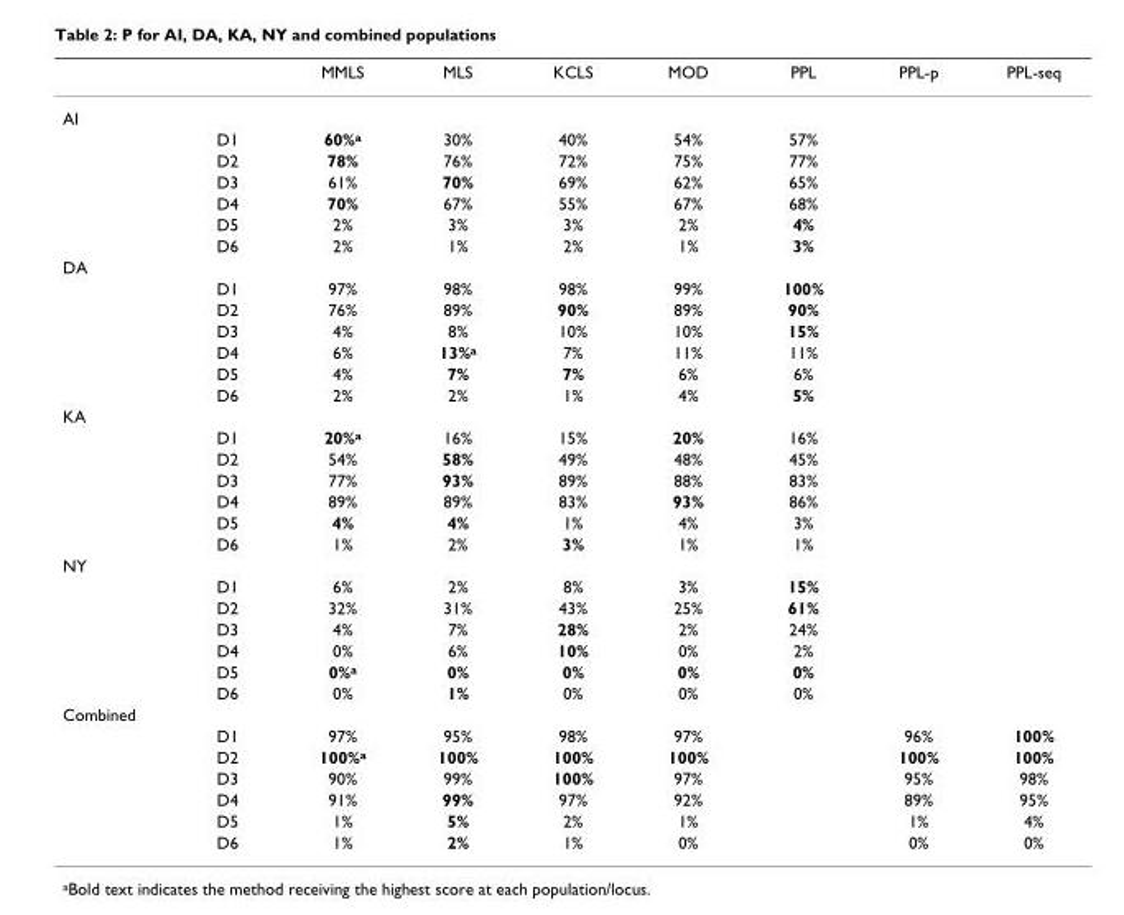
<table><thead><tr><td></td><td></td><td>MMLS</td><td>MLS</td><td>KCLS</td><td>MOD</td><td>PPL</td><td>PPL-p</td><td>PPL-seq</td></tr></thead><tbody><tr><td colspan="9">AI</td></tr><tr><td></td><td>D1</td><td>60%a</td><td>30%</td><td>40%</td><td>54%</td><td>57%</td><td></td><td></td></tr><tr><td></td><td>D2</td><td>78%</td><td>76%</td><td>72%</td><td>75%</td><td>77%</td><td></td><td></td></tr><tr><td></td><td>D3</td><td>61%</td><td>70%</td><td>69%</td><td>62%</td><td>65%</td><td></td><td></td></tr><tr><td></td><td>D4</td><td>70%</td><td>67%</td><td>55%</td><td>67%</td><td>68%</td><td></td><td></td></tr><tr><td></td><td>D5</td><td>2%</td><td>3%</td><td>3%</td><td>2%</td><td>4%</td><td></td><td></td></tr><tr><td></td><td>D6</td><td>2%</td><td>1%</td><td>2%</td><td>1%</td><td>3%</td><td></td><td></td></tr><tr><td colspan="9">DA</td></tr><tr><td></td><td>D1</td><td>97%</td><td>98%</td><td>98%</td><td>99%</td><td>100%</td><td></td><td></td></tr><tr><td></td><td>D2</td><td>76%</td><td>89%</td><td>90%</td><td>89%</td><td>90%</td><td></td><td></td></tr><tr><td></td><td>D3</td><td>4%</td><td>8%</td><td>10%</td><td>10%</td><td>15%</td><td></td><td></td></tr><tr><td></td><td>D4</td><td>6%</td><td>13%a</td><td>7%</td><td>11%</td><td>11%</td><td></td><td></td></tr><tr><td></td><td>D5</td><td>4%</td><td>7%</td><td>7%</td><td>6%</td><td>6%</td><td></td><td></td></tr><tr><td></td><td>D6</td><td>2%</td><td>2%</td><td>1%</td><td>4%</td><td>5%</td><td></td><td></td></tr><tr><td colspan="9">KA</td></tr><tr><td></td><td>D1</td><td>20%a</td><td>16%</td><td>15%</td><td>20%</td><td>16%</td><td></td><td></td></tr><tr><td></td><td>D2</td><td>54%</td><td>58%</td><td>49%</td><td>48%</td><td>45%</td><td></td><td></td></tr><tr><td></td><td>D3</td><td>77%</td><td>93%</td><td>89%</td><td>88%</td><td>83%</td><td></td><td></td></tr><tr><td></td><td>D4</td><td>89%</td><td>89%</td><td>83%</td><td>93%</td><td>86%</td><td></td><td></td></tr><tr><td></td><td>D5</td><td>4%</td><td>4%</td><td>1%</td><td>4%</td><td>3%</td><td></td><td></td></tr><tr><td></td><td>D6</td><td>1%</td><td>2%</td><td>3%</td><td>1%</td><td>1%</td><td></td><td></td></tr><tr><td colspan="9">NY</td></tr><tr><td></td><td>D1</td><td>6%</td><td>2%</td><td>8%</td><td>3%</td><td>15%</td><td></td><td></td></tr><tr><td></td><td>D2</td><td>32%</td><td>31%</td><td>43%</td><td>25%</td><td>61%</td><td></td><td></td></tr><tr><td></td><td>D3</td><td>4%</td><td>7%</td><td>28%</td><td>2%</td><td>24%</td><td></td><td></td></tr><tr><td></td><td>D4</td><td>0%</td><td>6%</td><td>10%</td><td>0%</td><td>2%</td><td></td><td></td></tr><tr><td></td><td>D5</td><td>0%a</td><td>0%</td><td>0%</td><td>0%</td><td>0%</td><td></td><td></td></tr><tr><td></td><td>D6</td><td>0%</td><td>1%</td><td>0%</td><td>0%</td><td>0%</td><td></td><td></td></tr><tr><td colspan="9">Combined</td></tr><tr><td></td><td>D1</td><td>97%</td><td>95%</td><td>98%</td><td>97%</td><td></td><td>96%</td><td>100%</td></tr><tr><td></td><td>D2</td><td>100%a</td><td>100%</td><td>100%</td><td>100%</td><td></td><td>100%</td><td>100%</td></tr><tr><td></td><td>D3</td><td>90%</td><td>99%</td><td>100%</td><td>97%</td><td></td><td>95%</td><td>98%</td></tr><tr><td></td><td>D4</td><td>91%</td><td>99%</td><td>97%</td><td>92%</td><td></td><td>89%</td><td>95%</td></tr><tr><td></td><td>D5</td><td>1%</td><td>5%</td><td>2%</td><td>1%</td><td></td><td>1%</td><td>4%</td></tr><tr><td></td><td>D6</td><td>1%</td><td>2%</td><td>1%</td><td>0%</td><td></td><td>0%</td><td>0%</td></tr></tbody></table>